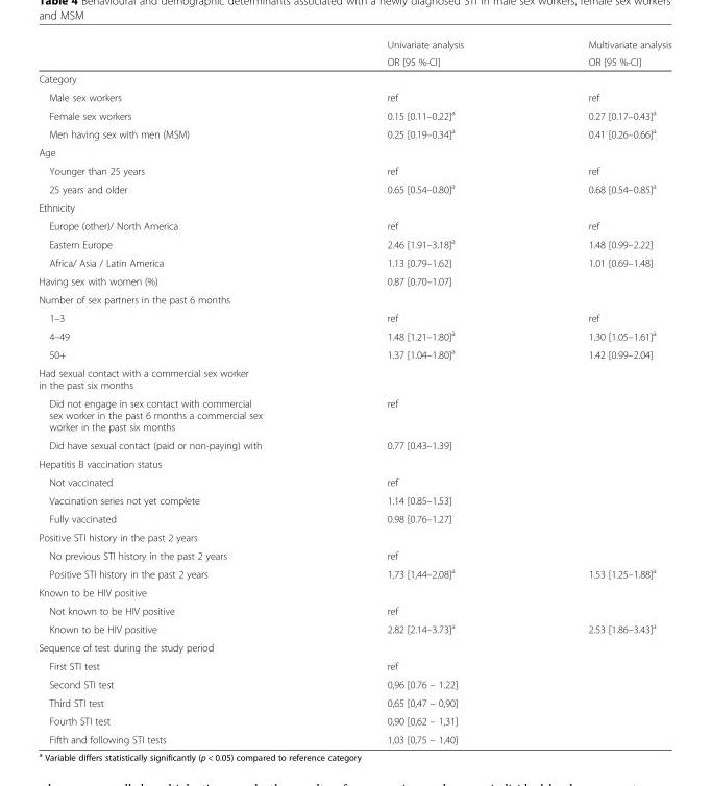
<table><thead><tr><td rowspan="2"></td><td rowspan="2">Univariate analysis OR [95 %-CI]</td><td rowspan="2">Multivariate analysis OR [95 %-CI]</td></tr><tr></tr></thead><tbody><tr><td colspan="3">Category</td></tr><tr><td>Male sex workers</td><td>ref</td><td>ref</td></tr><tr><td>Female sex workers</td><td>0.15 [0.11–0.22]<sup>a</sup></td><td>0.27 [0.17–0.43]<sup>a</sup></td></tr><tr><td>Men having sex with men (MSM)</td><td>0.25 [0.19–0.34]<sup>a</sup></td><td>0.41 [0.26–0.66]<sup>a</sup></td></tr><tr><td colspan="3">Age</td></tr><tr><td>Younger than 25 years</td><td>ref</td><td>ref</td></tr><tr><td>25 years and older</td><td>0.65 [0.54–0.80]<sup>a</sup></td><td>0.68 [0.54–0.85]<sup>a</sup></td></tr><tr><td colspan="3">Ethnicity</td></tr><tr><td>Europe (other)/ North America</td><td>ref</td><td>ref</td></tr><tr><td>Eastern Europe</td><td>2.46 [1.91–3.18]<sup>a</sup></td><td>1.48 [0.99–2.22]</td></tr><tr><td>Africa/ Asia / Latin America</td><td>1.13 [0.79–1.62]</td><td>1.01 [0.69–1.48]</td></tr><tr><td>Having sex with women (%)</td><td>0.87 [0.70–1.07]</td><td></td></tr><tr><td colspan="3">Number of sex partners in the past 6 months</td></tr><tr><td>1–3</td><td>ref</td><td>ref</td></tr><tr><td>4–49</td><td>1.48 [1.21–1.80]<sup>a</sup></td><td>1.30 [1.05–1.61]<sup>a</sup></td></tr><tr><td>50+</td><td>1.37 [1.04–1.80]<sup>a</sup></td><td>1.42 [0.99–2.04]</td></tr><tr><td colspan="3">Had sexual contact with a commercial sex worker in the past six months</td></tr><tr><td>Did not engage in sex contact with commercial sex worker in the past 6 months a commercial sex worker in the past six months</td><td>ref</td><td></td></tr><tr><td>Did have sexual contact (paid or non-paying) with</td><td>0.77 [0.43–1.39]</td><td></td></tr><tr><td colspan="3">Hepatitis B vaccination status</td></tr><tr><td>Not vaccinated</td><td>ref</td><td></td></tr><tr><td>Vaccination series not yet complete</td><td>1.14 [0.85–1.53]</td><td></td></tr><tr><td>Fully vaccinated</td><td>0.98 [0.76–1.27]</td><td></td></tr><tr><td colspan="3">Positive STI history in the past 2 years</td></tr><tr><td>No previous STI history in the past 2 years</td><td>ref</td><td></td></tr><tr><td>Positive STI history in the past 2 years</td><td>1,73 [1,44–2,08]<sup>a</sup></td><td>1.53 [1.25–1.88]<sup>a</sup></td></tr><tr><td colspan="3">Known to be HIV positive</td></tr><tr><td>Not known to be HIV positive</td><td>ref</td><td></td></tr><tr><td>Known to be HIV positive</td><td>2.82 [2.14–3.73]<sup>a</sup></td><td>2.53 [1.86–3.43]<sup>a</sup></td></tr><tr><td colspan="3">Sequence of test during the study period</td></tr><tr><td>First STI test</td><td>ref</td><td></td></tr><tr><td>Second STI test</td><td>0,96 [0.76 – 1.22]</td><td></td></tr><tr><td>Third STI test</td><td>0,65 [0,47 – 0,90]</td><td></td></tr><tr><td>Fourth STI test</td><td>0,90 [0,62 – 1,31]</td><td></td></tr><tr><td>Fifth and following STI tests</td><td>1,03 [0,75 – 1,40]</td><td></td></tr></tbody></table>